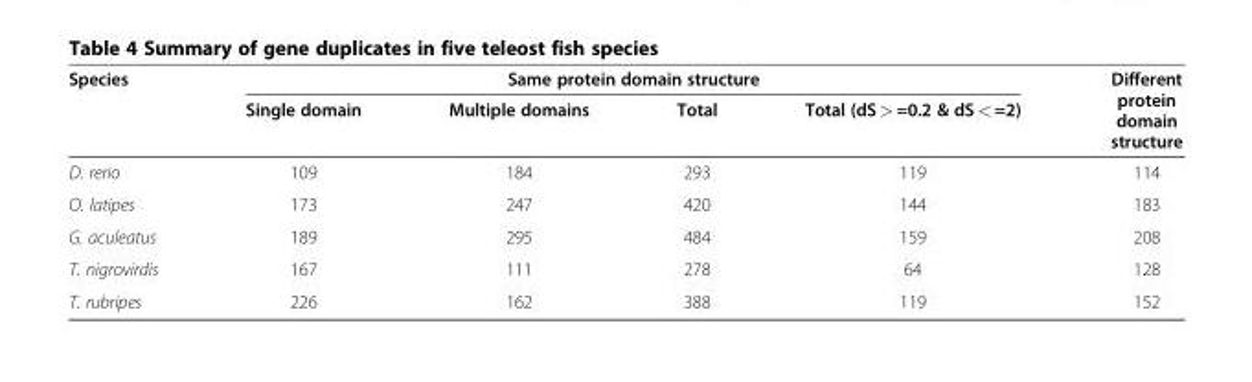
<table><thead><tr><td rowspan="2">Species</td><td colspan="4">Same protein domain structure</td><td rowspan="2">Different protein domain structure</td></tr><tr><td>Single domain</td><td>Multiple domains</td><td>Total</td><td>Total (dS &gt; =0.2 &amp; dS &lt; =2)</td></tr></thead><tbody><tr><td>D. rerio</td><td>109</td><td>184</td><td>293</td><td>119</td><td>114</td></tr><tr><td>O. latipes</td><td>173</td><td>247</td><td>420</td><td>144</td><td>183</td></tr><tr><td>G. aculeatus</td><td>189</td><td>295</td><td>484</td><td>159</td><td>208</td></tr><tr><td>T. nigrovirdis</td><td>167</td><td>111</td><td>278</td><td>64</td><td>128</td></tr><tr><td>T. rubripes</td><td>226</td><td>162</td><td>388</td><td>119</td><td>152</td></tr></tbody></table>